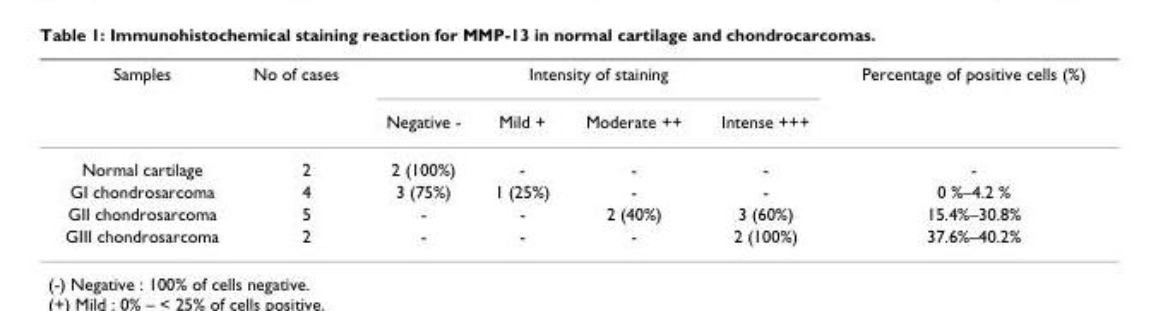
<table><thead><tr><td rowspan="2">Samples</td><td rowspan="2">No of cases</td><td colspan="4">Intensity of staining</td><td rowspan="2">Percentage of positive cells (%)</td></tr><tr><td>Negative -</td><td>Mild +</td><td>Moderate ++</td><td>Intense +++</td></tr></thead><tbody><tr><td>Normal cartilage</td><td>2</td><td>2 (100%)</td><td>-</td><td>-</td><td>-</td><td>-</td></tr><tr><td>GI chondrosarcoma</td><td>4</td><td>3 (75%)</td><td>1 (25%)</td><td>-</td><td>-</td><td>0 %–4.2 %</td></tr><tr><td>GII chondrosarcoma</td><td>5</td><td>-</td><td>-</td><td>2 (40%)</td><td>3 (60%)</td><td>15.4%–30.8%</td></tr><tr><td>GIII chondrosarcoma</td><td>2</td><td>-</td><td>-</td><td>-</td><td>2 (100%)</td><td>37.6%–40.2%</td></tr></tbody></table>